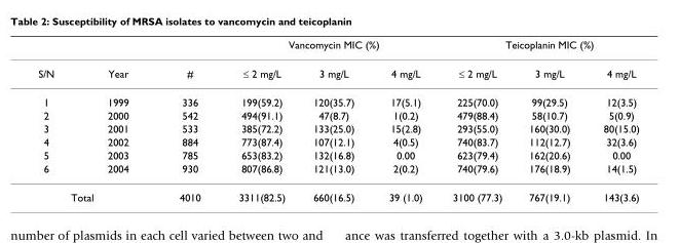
<table><thead><tr><td rowspan="2">S/N</td><td rowspan="2">Year</td><td rowspan="2">#</td><td colspan="3">Vancomycin MIC (%)</td><td colspan="3">Teicoplanin MIC (%)</td></tr><tr><td>≤ 2 mg/L</td><td>3 mg/L</td><td>4 mg/L</td><td>≤ 2 mg/L</td><td>3 mg/L</td><td>4 mg/L</td></tr></thead><tbody><tr><td>1</td><td>1999</td><td>336</td><td>199(59.2)</td><td>120(35.7)</td><td>17(5.1)</td><td>225(70.0)</td><td>99(29.5)</td><td>12(3.5)</td></tr><tr><td>2</td><td>2000</td><td>542</td><td>494(91.1)</td><td>47(8.7)</td><td>1(0.2)</td><td>479(88.4)</td><td>58(10.7)</td><td>5(0.9)</td></tr><tr><td>3</td><td>2001</td><td>533</td><td>385(72.2)</td><td>133(25.0)</td><td>15(2.8)</td><td>293(55.0)</td><td>160(30.0)</td><td>80(15.0)</td></tr><tr><td>4</td><td>2002</td><td>884</td><td>773(87.4)</td><td>107(12.1)</td><td>4(0.5)</td><td>740(83.7)</td><td>112(12.7)</td><td>32(3.6)</td></tr><tr><td>5</td><td>2003</td><td>785</td><td>653(83.2)</td><td>132(16.8)</td><td>0.00</td><td>623(79.4)</td><td>162(20.6)</td><td>0.00</td></tr><tr><td>6</td><td>2004</td><td>930</td><td>807(86.8)</td><td>121(13.0)</td><td>2(0.2)</td><td>740(79.6)</td><td>176(18.9)</td><td>14(1.5)</td></tr><tr><td colspan="2">Total</td><td>4010</td><td>3311(82.5)</td><td>660(16.5)</td><td>39 (1.0)</td><td>3100 (77.3)</td><td>767(19.1)</td><td>143(3.6)</td></tr></tbody></table>